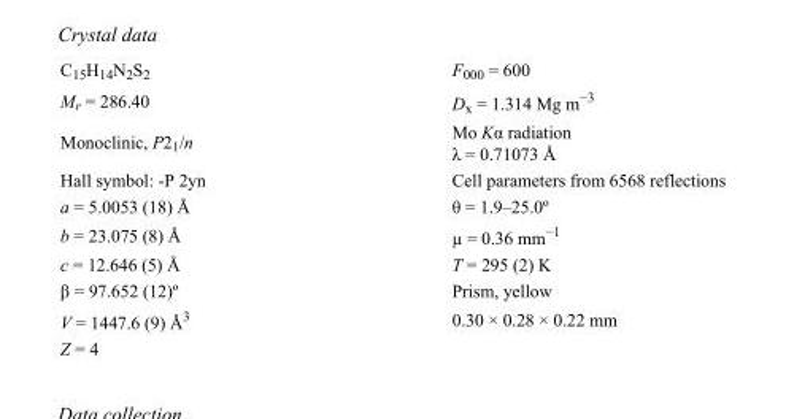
<table><tbody><tr><td>C<sub>15</sub>H<sub>14</sub>N<sub>2</sub>S<sub>2</sub></td><td>F<sub>000</sub> = 600</td></tr><tr><td>M<sub>r</sub> = 286.40</td><td>D<sub>x</sub> = 1.314 Mg m<sup>−3</sup></td></tr><tr><td>Monoclinic, P2<sub>1</sub>/n</td><td>Mo Kα radiation λ = 0.71073 Å</td></tr><tr><td>Hall symbol: -P 2yn</td><td>Cell parameters from 6568 reflections</td></tr><tr><td>a = 5.0053 (18) Å</td><td>θ = 1.9–25.0º</td></tr><tr><td>b = 23.075 (8) Å</td><td>µ = 0.36 mm<sup>−1</sup></td></tr><tr><td>c = 12.646 (5) Å</td><td>T = 295 (2) K</td></tr><tr><td>β = 97.652 (12)º</td><td>Prism, yellow</td></tr><tr><td>V = 1447.6 (9) Å<sup>3</sup></td><td>0.30 × 0.28 × 0.22 mm</td></tr><tr><td>Z = 4</td><td></td></tr></tbody></table>